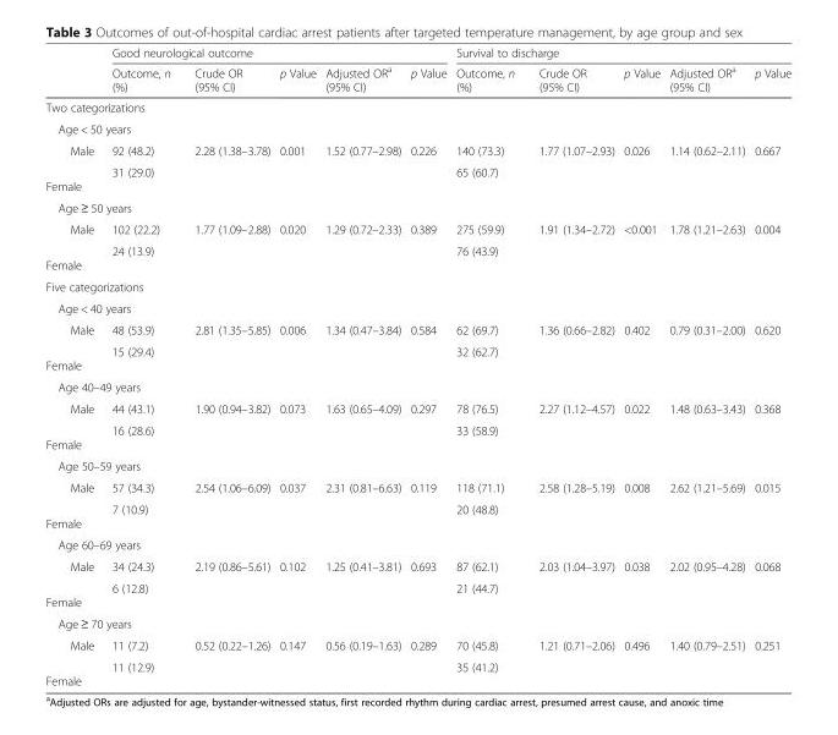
<table><thead><tr><td rowspan="2"></td><td colspan="5">Good neurological outcome</td><td colspan="5">Survival to discharge</td></tr><tr><td>Outcome, n (%)</td><td>Crude OR (95% CI)</td><td>p Value</td><td>Adjusted OR<sup>a</sup> (95% CI)</td><td>p Value</td><td>Outcome, n (%)</td><td>Crude OR (95% CI)</td><td>p Value</td><td>Adjusted OR<sup>a</sup> (95% CI)</td><td>p Value</td></tr></thead><tbody><tr><td colspan="11">Two categorizations</td></tr><tr><td colspan="11">Age &lt; 50 years</td></tr><tr><td>Male</td><td>92 (48.2)</td><td>2.28 (1.38–3.78)</td><td>0.001</td><td>1.52 (0.77–2.98)</td><td>0.226</td><td>140 (73.3)</td><td>1.77 (1.07–2.93)</td><td>0.026</td><td>1.14 (0.62–2.11)</td><td>0.667</td></tr><tr><td>Female</td><td>31 (29.0)</td><td></td><td></td><td></td><td></td><td>65 (60.7)</td><td></td><td></td><td></td><td></td></tr><tr><td colspan="11">Age ≥ 50 years</td></tr><tr><td>Male</td><td>102 (22.2)</td><td>1.77 (1.09–2.88)</td><td>0.020</td><td>1.29 (0.72–2.33)</td><td>0.389</td><td>275 (59.9)</td><td>1.91 (1.34–2.72)</td><td>&lt;0.001</td><td>1.78 (1.21–2.63)</td><td>0.004</td></tr><tr><td>Female</td><td>24 (13.9)</td><td></td><td></td><td></td><td></td><td>76 (43.9)</td><td></td><td></td><td></td><td></td></tr><tr><td colspan="11">Five categorizations</td></tr><tr><td colspan="11">Age &lt; 40 years</td></tr><tr><td>Male</td><td>48 (53.9)</td><td>2.81 (1.35–5.85)</td><td>0.006</td><td>1.34 (0.47–3.84)</td><td>0.584</td><td>62 (69.7)</td><td>1.36 (0.66–2.82)</td><td>0.402</td><td>0.79 (0.31–2.00)</td><td>0.620</td></tr><tr><td>Female</td><td>15 (29.4)</td><td></td><td></td><td></td><td></td><td>32 (62.7)</td><td></td><td></td><td></td><td></td></tr><tr><td colspan="11">Age 40–49 years</td></tr><tr><td>Male</td><td>44 (43.1)</td><td>1.90 (0.94–3.82)</td><td>0.073</td><td>1.63 (0.65–4.09)</td><td>0.297</td><td>78 (76.5)</td><td>2.27 (1.12–4.57)</td><td>0.022</td><td>1.48 (0.63–3.43)</td><td>0.368</td></tr><tr><td>Female</td><td>16 (28.6)</td><td></td><td></td><td></td><td></td><td>33 (58.9)</td><td></td><td></td><td></td><td></td></tr><tr><td colspan="11">Age 50–59 years</td></tr><tr><td>Male</td><td>57 (34.3)</td><td>2.54 (1.06–6.09)</td><td>0.037</td><td>2.31 (0.81–6.63)</td><td>0.119</td><td>118 (71.1)</td><td>2.58 (1.28–5.19)</td><td>0.008</td><td>2.62 (1.21–5.69)</td><td>0.015</td></tr><tr><td>Female</td><td>7 (10.9)</td><td></td><td></td><td></td><td></td><td>20 (48.8)</td><td></td><td></td><td></td><td></td></tr><tr><td colspan="11">Age 60–69 years</td></tr><tr><td>Male</td><td>34 (24.3)</td><td>2.19 (0.86–5.61)</td><td>0.102</td><td>1.25 (0.41–3.81)</td><td>0.693</td><td>87 (62.1)</td><td>2.03 (1.04–3.97)</td><td>0.038</td><td>2.02 (0.95–4.28)</td><td>0.068</td></tr><tr><td>Female</td><td>6 (12.8)</td><td></td><td></td><td></td><td></td><td>21 (44.7)</td><td></td><td></td><td></td><td></td></tr><tr><td colspan="11">Age ≥ 70 years</td></tr><tr><td>Male</td><td>11 (7.2)</td><td>0.52 (0.22–1.26)</td><td>0.147</td><td>0.56 (0.19–1.63)</td><td>0.289</td><td>70 (45.8)</td><td>1.21 (0.71–2.06)</td><td>0.496</td><td>1.40 (0.79–2.51)</td><td>0.251</td></tr><tr><td>Female</td><td>11 (12.9)</td><td></td><td></td><td></td><td></td><td>35 (41.2)</td><td></td><td></td><td></td><td></td></tr></tbody></table>